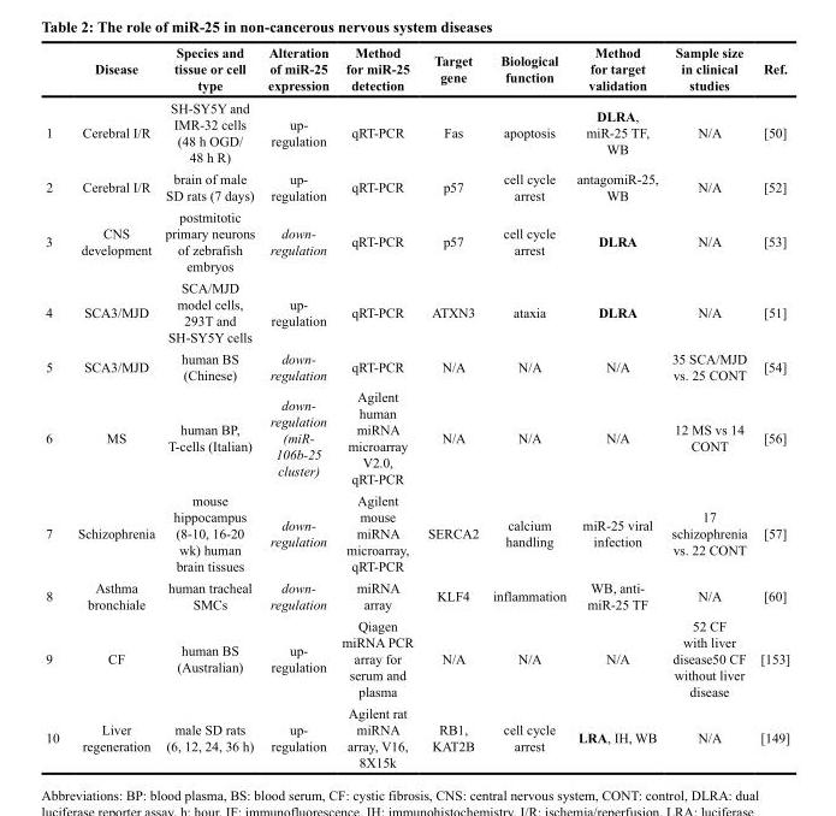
<table><thead><tr><td></td><td>Disease</td><td>Species and tissue or cell type</td><td>Alteration of miR-25 expression</td><td>Method for miR-25 detection</td><td>Target gene</td><td>Biological function</td><td>Method for target validation</td><td>Sample size in clinical studies</td><td>Ref.</td></tr></thead><tbody><tr><td>1</td><td>Cerebral I/R</td><td>SH-SY5Y and IMR-32 cells (48 h OGD/ 48 h R)</td><td>up- regulation</td><td>qRT-PCR</td><td>Fas</td><td>apoptosis</td><td>DLRA, miR-25 TF, WB</td><td>N/A</td><td>[50]</td></tr><tr><td>2</td><td>Cerebral I/R</td><td>brain of male SD rats (7 days)</td><td>up- regulation</td><td>qRT-PCR</td><td>p57</td><td>cell cycle arrest</td><td>antagomiR-25, WB</td><td>N/A</td><td>[52]</td></tr><tr><td>3</td><td>CNS development</td><td>postmitotic primary neurons of zebrafish embryos</td><td>down- regulation</td><td>qRT-PCR</td><td>p57</td><td>cell cycle arrest</td><td>DLRA</td><td>N/A</td><td>[53]</td></tr><tr><td>4</td><td>SCA3/MJD</td><td>SCA/MJD model cells, 293T and SH-SY5Y cells</td><td>up- regulation</td><td>qRT-PCR</td><td>ATXN3</td><td>ataxia</td><td>DLRA</td><td>N/A</td><td>[51]</td></tr><tr><td>5</td><td>SCA3/MJD</td><td>human BS (Chinese)</td><td>down- regulation</td><td>qRT-PCR</td><td>N/A</td><td>N/A</td><td>N/A</td><td>35 SCA/MJD vs. 25 CONT</td><td>[54]</td></tr><tr><td>6</td><td>MS</td><td>human BP, T-cells (Italian)</td><td>down- regulation (miR- 106b-25 cluster)</td><td>Agilent human miRNA microarray V2.0, qRT-PCR</td><td>N/A</td><td>N/A</td><td>N/A</td><td>12 MS vs 14 CONT</td><td>[56]</td></tr><tr><td>7</td><td>Schizophrenia</td><td>mouse hippocampus (8-10, 16-20 wk) human brain tissues</td><td>down- regulation</td><td>Agilent mouse miRNA microarray, qRT-PCR</td><td>SERCA2</td><td>calcium handling</td><td>miR-25 viral infection</td><td>17 schizophrenia vs. 22 CONT</td><td>[57]</td></tr><tr><td>8</td><td>Asthma bronchiale</td><td>human tracheal SMCs</td><td>down- regulation</td><td>miRNA array</td><td>KLF4</td><td>inflammation</td><td>WB, anti- miR-25 TF</td><td>N/A</td><td>[60]</td></tr><tr><td>9</td><td>CF</td><td>human BS (Australian)</td><td>up- regulation</td><td>Qiagen miRNA PCR array for serum and plasma</td><td>N/A</td><td>N/A</td><td>N/A</td><td>52 CF with liver disease50 CF without liver disease</td><td>[153]</td></tr><tr><td>10</td><td>Liver regeneration</td><td>male SD rats (6, 12, 24, 36 h)</td><td>up- regulation</td><td>Agilent rat miRNA array, V16, 8X15k</td><td>RB1, KAT2B</td><td>cell cycle arrest</td><td>LRA, IH, WB</td><td>N/A</td><td>[149]</td></tr></tbody></table>